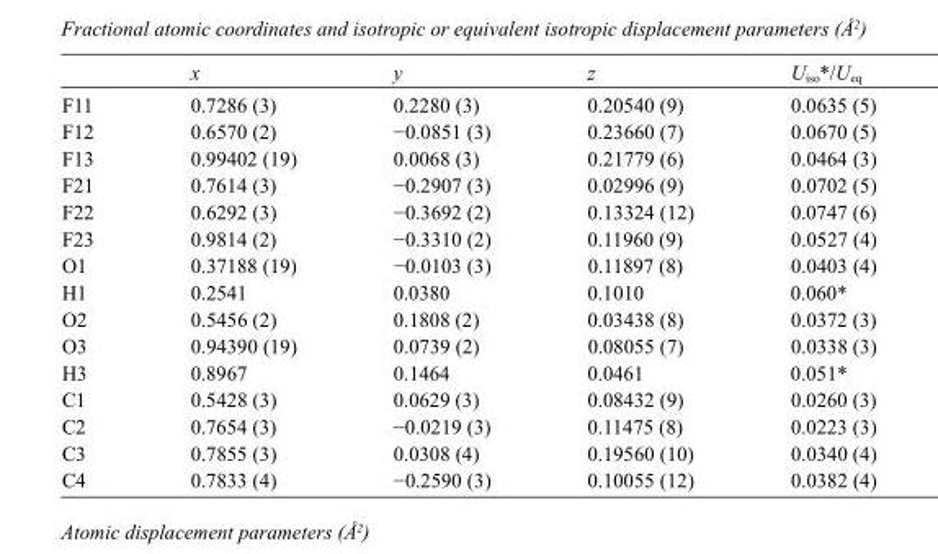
<table><thead><tr><td></td><td>x</td><td>y</td><td>z</td><td>U<sub>iso</sub>*/U<sub>eq</sub></td></tr></thead><tbody><tr><td>F11</td><td>0.7286 (3)</td><td>0.2280 (3)</td><td>0.20540 (9)</td><td>0.0635 (5)</td></tr><tr><td>F12</td><td>0.6570 (2)</td><td>−0.0851 (3)</td><td>0.23660 (7)</td><td>0.0670 (5)</td></tr><tr><td>F13</td><td>0.99402 (19)</td><td>0.0068 (3)</td><td>0.21779 (6)</td><td>0.0464 (3)</td></tr><tr><td>F21</td><td>0.7614 (3)</td><td>−0.2907 (3)</td><td>0.02996 (9)</td><td>0.0702 (5)</td></tr><tr><td>F22</td><td>0.6292 (3)</td><td>−0.3692 (2)</td><td>0.13324 (12)</td><td>0.0747 (6)</td></tr><tr><td>F23</td><td>0.9814 (2)</td><td>−0.3310 (2)</td><td>0.11960 (9)</td><td>0.0527 (4)</td></tr><tr><td>O1</td><td>0.37188 (19)</td><td>−0.0103 (3)</td><td>0.11897 (8)</td><td>0.0403 (4)</td></tr><tr><td>H1</td><td>0.2541</td><td>0.0380</td><td>0.1010</td><td>0.060*</td></tr><tr><td>O2</td><td>0.5456 (2)</td><td>0.1808 (2)</td><td>0.03438 (8)</td><td>0.0372 (3)</td></tr><tr><td>O3</td><td>0.94390 (19)</td><td>0.0739 (2)</td><td>0.08055 (7)</td><td>0.0338 (3)</td></tr><tr><td>H3</td><td>0.8967</td><td>0.1464</td><td>0.0461</td><td>0.051*</td></tr><tr><td>C1</td><td>0.5428 (3)</td><td>0.0629 (3)</td><td>0.08432 (9)</td><td>0.0260 (3)</td></tr><tr><td>C2</td><td>0.7654 (3)</td><td>−0.0219 (3)</td><td>0.11475 (8)</td><td>0.0223 (3)</td></tr><tr><td>C3</td><td>0.7855 (3)</td><td>0.0308 (4)</td><td>0.19560 (10)</td><td>0.0340 (4)</td></tr><tr><td>C4</td><td>0.7833 (4)</td><td>−0.2590 (3)</td><td>0.10055 (12)</td><td>0.0382 (4)</td></tr></tbody></table>